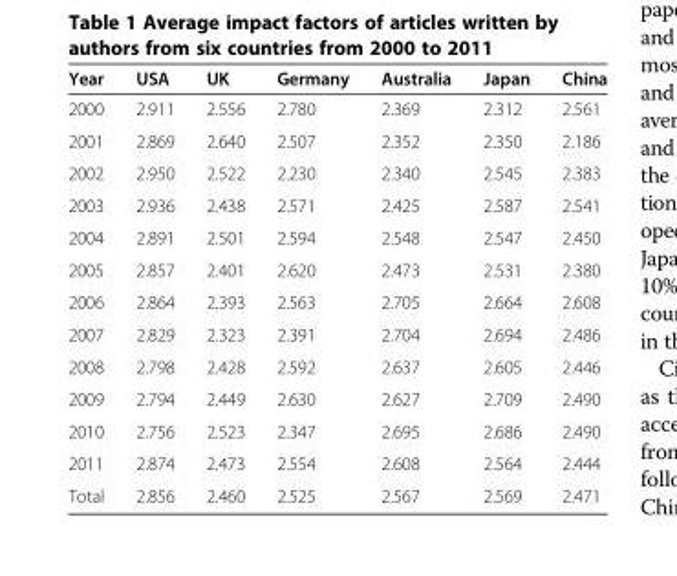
<table><thead><tr><td>Year</td><td>USA</td><td>UK</td><td>Germany</td><td>Australia</td><td>Japan</td><td>China</td></tr></thead><tbody><tr><td>2000</td><td>2.911</td><td>2.556</td><td>2.780</td><td>2.369</td><td>2.312</td><td>2.561</td></tr><tr><td>2001</td><td>2.869</td><td>2.640</td><td>2.507</td><td>2.352</td><td>2.350</td><td>2.186</td></tr><tr><td>2002</td><td>2.950</td><td>2.522</td><td>2.230</td><td>2.340</td><td>2.545</td><td>2.383</td></tr><tr><td>2003</td><td>2.936</td><td>2.438</td><td>2.571</td><td>2.425</td><td>2.587</td><td>2.541</td></tr><tr><td>2004</td><td>2.891</td><td>2.501</td><td>2.594</td><td>2.548</td><td>2.547</td><td>2.450</td></tr><tr><td>2005</td><td>2.857</td><td>2.401</td><td>2.620</td><td>2.473</td><td>2.531</td><td>2.380</td></tr><tr><td>2006</td><td>2.864</td><td>2.393</td><td>2.563</td><td>2.705</td><td>2.664</td><td>2.608</td></tr><tr><td>2007</td><td>2.829</td><td>2.323</td><td>2.391</td><td>2.704</td><td>2.694</td><td>2.486</td></tr><tr><td>2008</td><td>2.798</td><td>2.428</td><td>2.592</td><td>2.637</td><td>2.605</td><td>2.446</td></tr><tr><td>2009</td><td>2.794</td><td>2.449</td><td>2.630</td><td>2.627</td><td>2.709</td><td>2.490</td></tr><tr><td>2010</td><td>2.756</td><td>2.523</td><td>2.347</td><td>2.695</td><td>2.686</td><td>2.490</td></tr><tr><td>2011</td><td>2.874</td><td>2.473</td><td>2.554</td><td>2.608</td><td>2.564</td><td>2.444</td></tr><tr><td>Total</td><td>2.856</td><td>2.460</td><td>2.525</td><td>2.567</td><td>2.569</td><td>2.471</td></tr></tbody></table>